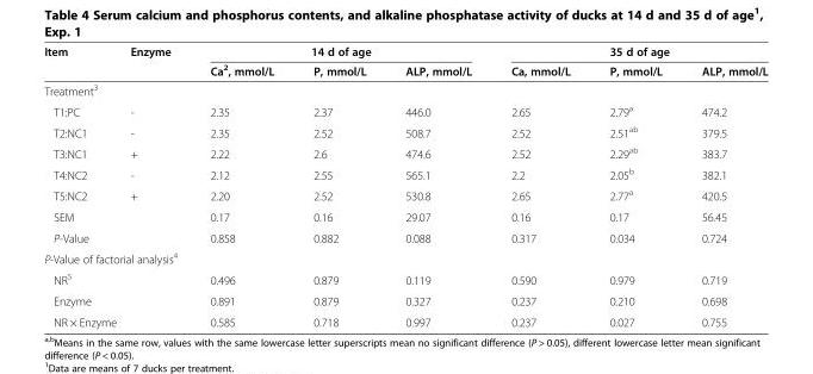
<table><thead><tr><td rowspan="2">Item</td><td rowspan="2">Enzyme</td><td colspan="3">14 d of age</td><td colspan="3">35 d of age</td></tr><tr><td>Ca<sup>2</sup>, mmol/L</td><td>P, mmol/L</td><td>ALP, mmol/L</td><td>Ca, mmol/L</td><td>P, mmol/L</td><td>ALP, mmol/L</td></tr></thead><tbody><tr><td colspan="8">Treatment<sup>3</sup></td></tr><tr><td>T1:PC</td><td>-</td><td>2.35</td><td>2.37</td><td>446.0</td><td>2.65</td><td>2.79<sup>a</sup></td><td>474.2</td></tr><tr><td>T2:NC1</td><td>-</td><td>2.35</td><td>2.52</td><td>508.7</td><td>2.52</td><td>2.51<sup>ab</sup></td><td>379.5</td></tr><tr><td>T3:NC1</td><td>+</td><td>2.22</td><td>2.6</td><td>474.6</td><td>2.52</td><td>2.29<sup>ab</sup></td><td>383.7</td></tr><tr><td>T4:NC2</td><td>-</td><td>2.12</td><td>2.55</td><td>565.1</td><td>2.2</td><td>2.05<sup>b</sup></td><td>382.1</td></tr><tr><td>T5:NC2</td><td>+</td><td>2.20</td><td>2.52</td><td>530.8</td><td>2.65</td><td>2.77<sup>a</sup></td><td>420.5</td></tr><tr><td>SEM</td><td></td><td>0.17</td><td>0.16</td><td>29.07</td><td>0.16</td><td>0.17</td><td>56.45</td></tr><tr><td>P-Value</td><td></td><td>0.858</td><td>0.882</td><td>0.088</td><td>0.317</td><td>0.034</td><td>0.724</td></tr><tr><td colspan="8">P-Value of factorial analysis<sup>4</sup></td></tr><tr><td>NR<sup>5</sup></td><td></td><td>0.496</td><td>0.879</td><td>0.119</td><td>0.590</td><td>0.979</td><td>0.719</td></tr><tr><td>Enzyme</td><td></td><td>0.891</td><td>0.879</td><td>0.327</td><td>0.237</td><td>0.210</td><td>0.698</td></tr><tr><td colspan="2">NR × Enzyme</td><td>0.585</td><td>0.718</td><td>0.997</td><td>0.237</td><td>0.027</td><td>0.755</td></tr></tbody></table>